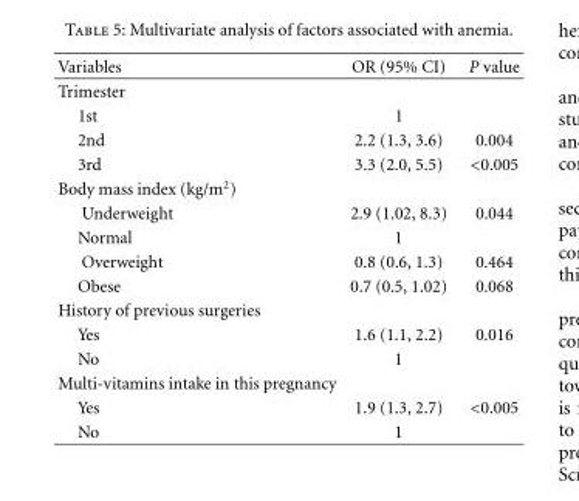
<table><thead><tr><td>Variables</td><td>OR (95% CI)</td><td>P value</td></tr></thead><tbody><tr><td colspan="3">Trimester</td></tr><tr><td>1st</td><td>1</td><td></td></tr><tr><td>2nd</td><td>2.2 (1.3, 3.6)</td><td>0.004</td></tr><tr><td>3rd</td><td>3.3 (2.0, 5.5)</td><td>&lt;0.005</td></tr><tr><td colspan="3">Body mass index (kg/m<sup>2</sup>)</td></tr><tr><td>Underweight</td><td>2.9 (1.02, 8.3)</td><td>0.044</td></tr><tr><td>Normal</td><td>1</td><td></td></tr><tr><td>Overweight</td><td>0.8 (0.6, 1.3)</td><td>0.464</td></tr><tr><td>Obese</td><td>0.7 (0.5, 1.02)</td><td>0.068</td></tr><tr><td colspan="3">History of previous surgeries</td></tr><tr><td>Yes</td><td>1.6 (1.1, 2.2)</td><td>0.016</td></tr><tr><td>No</td><td>1</td><td></td></tr><tr><td colspan="3">Multi-vitamins intake in this pregnancy</td></tr><tr><td>Yes</td><td>1.9 (1.3, 2.7)</td><td>&lt;0.005</td></tr><tr><td>No</td><td>1</td><td></td></tr></tbody></table>